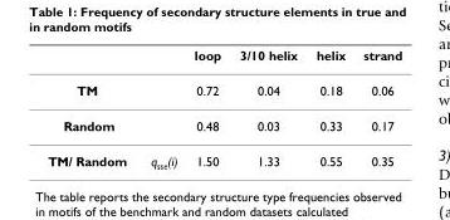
<table><thead><tr><td></td><td></td><td>loop</td><td>3/10 helix</td><td>helix</td><td>strand</td></tr></thead><tbody><tr><td>TM</td><td></td><td>0.72</td><td>0.04</td><td>0.18</td><td>0.06</td></tr><tr><td>Random</td><td></td><td>0.48</td><td>0.03</td><td>0.33</td><td>0.17</td></tr><tr><td>TM/ Random</td><td>q<sub>sse</sub>(i)</td><td>1.50</td><td>1.33</td><td>0.55</td><td>0.35</td></tr></tbody></table>